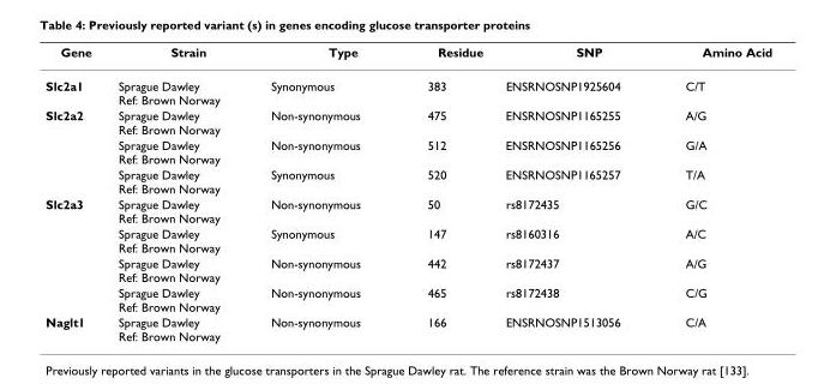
<table><thead><tr><td>Gene</td><td>Strain</td><td>Type</td><td>Residue</td><td>SNP</td><td>Amino Acid</td></tr></thead><tbody><tr><td>Slc2a1</td><td>Sprague Dawley Ref: Brown Norway</td><td>Synonymous</td><td>383</td><td>ENSRNOSNP1925604</td><td>C/T</td></tr><tr><td rowspan="3">Slc2a2</td><td>Sprague Dawley Ref: Brown Norway</td><td>Non-synonymous</td><td>475</td><td>ENSRNOSNP1165255</td><td>A/G</td></tr><tr><td>Sprague Dawley Ref: Brown Norway</td><td>Non-synonymous</td><td>512</td><td>ENSRNOSNP1165256</td><td>G/A</td></tr><tr><td>Sprague Dawley Ref: Brown Norway</td><td>Synonymous</td><td>520</td><td>ENSRNOSNP1165257</td><td>T/A</td></tr><tr><td rowspan="4">Slc2a3</td><td>Sprague Dawley Ref: Brown Norway</td><td>Non-synonymous</td><td>50</td><td>rs8172435</td><td>G/C</td></tr><tr><td>Sprague Dawley Ref: Brown Norway</td><td>Synonymous</td><td>147</td><td>rs8160316</td><td>A/C</td></tr><tr><td>Sprague Dawley Ref: Brown Norway</td><td>Non-synonymous</td><td>442</td><td>rs8172437</td><td>A/G</td></tr><tr><td>Sprague Dawley Ref: Brown Norway</td><td>Non-synonymous</td><td>465</td><td>rs8172438</td><td>C/G</td></tr><tr><td>Naglt1</td><td>Sprague Dawley Ref: Brown Norway</td><td>Non-synonymous</td><td>166</td><td>ENSRNOSNP1513056</td><td>C/A</td></tr></tbody></table>